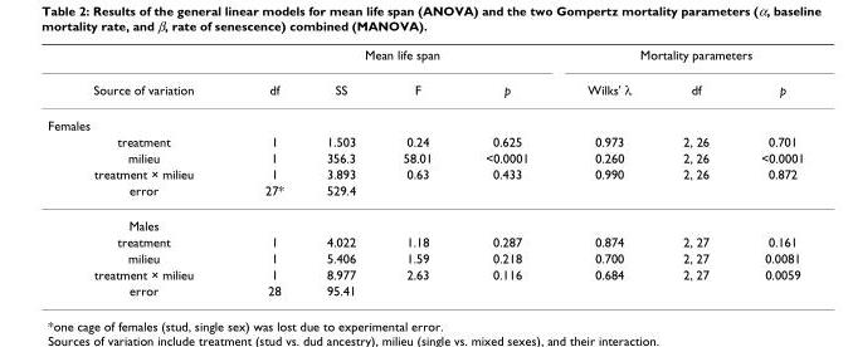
<table><thead><tr><td rowspan="2">Source of variation</td><td colspan="4">Mean life span</td><td colspan="3">Mortality parameters</td></tr><tr><td>df</td><td>SS</td><td>F</td><td>p</td><td>Wilks&#x27; λ</td><td>df</td><td>p</td></tr></thead><tbody><tr><td colspan="8">Females</td></tr><tr><td>treatment</td><td>1</td><td>1.503</td><td>0.24</td><td>0.625</td><td>0.973</td><td>2, 26</td><td>0.701</td></tr><tr><td>milieu</td><td>1</td><td>356.3</td><td>58.01</td><td>&lt;0.0001</td><td>0.260</td><td>2, 26</td><td>&lt;0.0001</td></tr><tr><td>treatment × milieu</td><td>1</td><td>3.893</td><td>0.63</td><td>0.433</td><td>0.990</td><td>2, 26</td><td>0.872</td></tr><tr><td>error</td><td>27*</td><td>529.4</td><td></td><td></td><td></td><td></td><td></td></tr><tr><td colspan="8">Males</td></tr><tr><td>treatment</td><td>1</td><td>4.022</td><td>1.18</td><td>0.287</td><td>0.874</td><td>2, 27</td><td>0.161</td></tr><tr><td>milieu</td><td>1</td><td>5.406</td><td>1.59</td><td>0.218</td><td>0.700</td><td>2, 27</td><td>0.0081</td></tr><tr><td>treatment × milieu</td><td>1</td><td>8.977</td><td>2.63</td><td>0.116</td><td>0.684</td><td>2, 27</td><td>0.0059</td></tr><tr><td>error</td><td>28</td><td>95.41</td><td></td><td></td><td></td><td></td><td></td></tr></tbody></table>